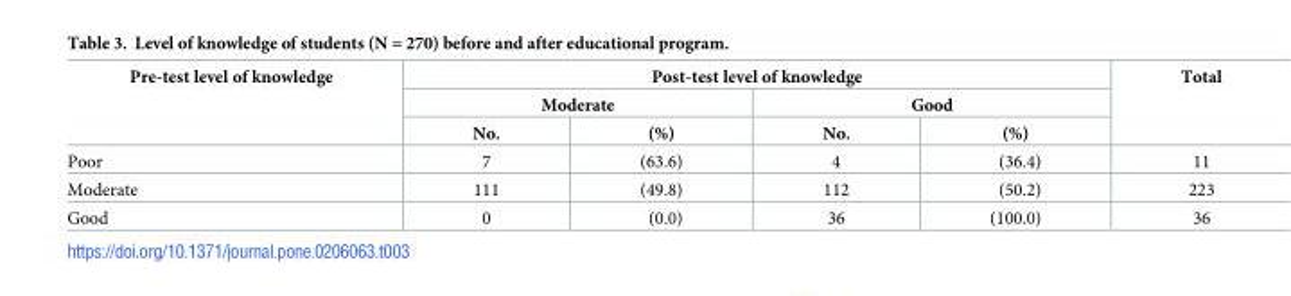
<table><thead><tr><td rowspan="3">Pre-test level of knowledge</td><td colspan="4">Post-test level of knowledge</td><td rowspan="3">Total</td></tr><tr><td colspan="2">Moderate</td><td colspan="2">Good</td></tr><tr><td>No.</td><td>(%)</td><td>No.</td><td>(%)</td></tr></thead><tbody><tr><td>Poor</td><td>7</td><td>(63.6)</td><td>4</td><td>(36.4)</td><td>11</td></tr><tr><td>Moderate</td><td>111</td><td>(49.8)</td><td>112</td><td>(50.2)</td><td>223</td></tr><tr><td>Good</td><td>0</td><td>(0.0)</td><td>36</td><td>(100.0)</td><td>36</td></tr></tbody></table>